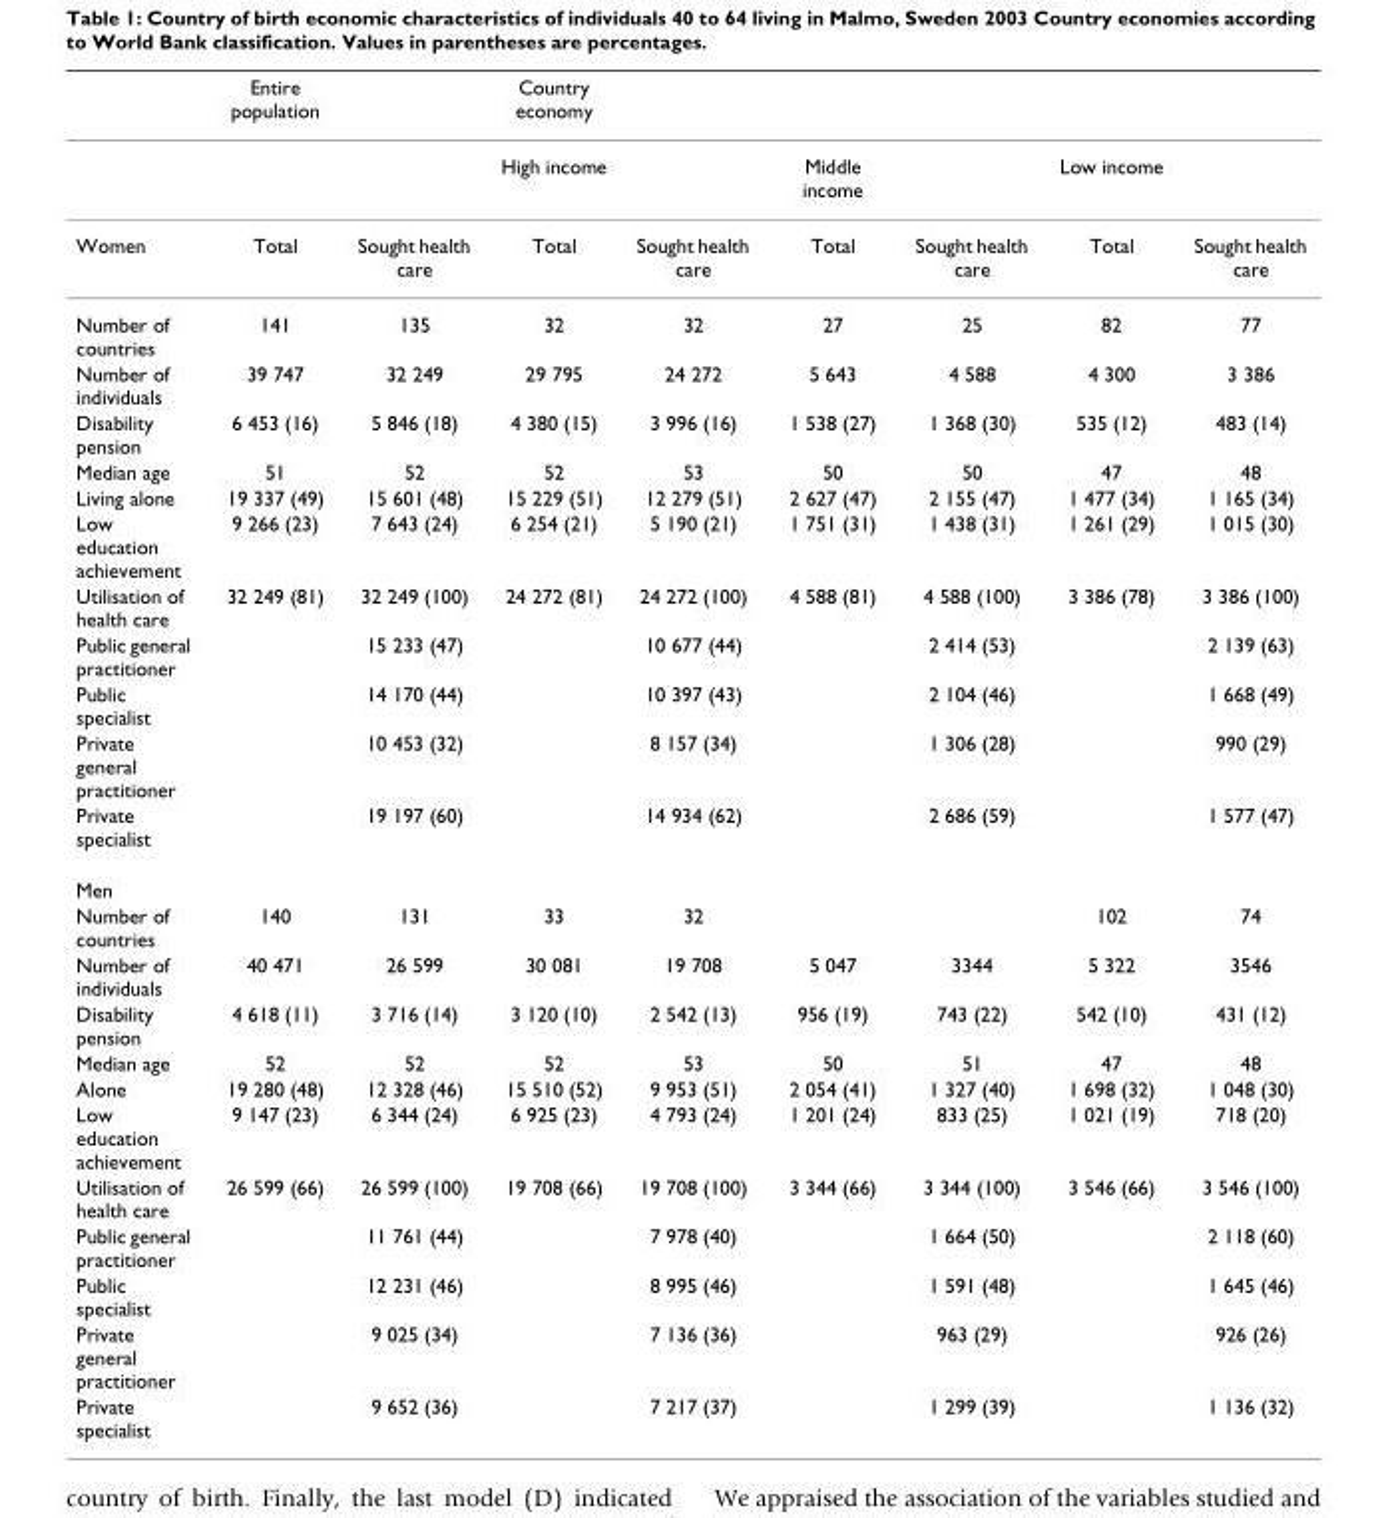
<table><thead><tr><td></td><td>Entire population</td><td></td><td>Country economy</td><td></td><td></td><td></td><td></td><td></td></tr></thead><tbody><tr><td></td><td></td><td></td><td>High income</td><td></td><td>Middle income</td><td></td><td>Low income</td><td></td></tr><tr><td>Women</td><td>Total</td><td>Sought health care</td><td>Total</td><td>Sought health care</td><td>Total</td><td>Sought health care</td><td>Total</td><td>Sought health care</td></tr><tr><td>Number of countries</td><td>141</td><td>135</td><td>32</td><td>32</td><td>27</td><td>25</td><td>82</td><td>77</td></tr><tr><td>Number of individuals</td><td>39 747</td><td>32 249</td><td>29 795</td><td>24 272</td><td>5 643</td><td>4 588</td><td>4 300</td><td>3 386</td></tr><tr><td>Disability pension</td><td>6 453 (16)</td><td>5 846 (18)</td><td>4 380 (15)</td><td>3 996 (16)</td><td>1 538 (27)</td><td>1 368 (30)</td><td>535 (12)</td><td>483 (14)</td></tr><tr><td>Median age</td><td>51</td><td>52</td><td>52</td><td>53</td><td>50</td><td>50</td><td>47</td><td>48</td></tr><tr><td>Living alone</td><td>19 337 (49)</td><td>15 601 (48)</td><td>15 229 (51)</td><td>12 279 (51)</td><td>2 627 (47)</td><td>2 155 (47)</td><td>1 477 (34)</td><td>1 165 (34)</td></tr><tr><td>Low education achievement</td><td>9 266 (23)</td><td>7 643 (24)</td><td>6 254 (21)</td><td>5 190 (21)</td><td>1 751 (31)</td><td>1 438 (31)</td><td>1 261 (29)</td><td>1 015 (30)</td></tr><tr><td>Utilisation of health care</td><td>32 249 (81)</td><td>32 249 (100)</td><td>24 272 (81)</td><td>24 272 (100)</td><td>4 588 (81)</td><td>4 588 (100)</td><td>3 386 (78)</td><td>3 386 (100)</td></tr><tr><td>Public general practitioner</td><td></td><td>15 233 (47)</td><td></td><td>10 677 (44)</td><td></td><td>2 414 (53)</td><td></td><td>2 139 (63)</td></tr><tr><td>Public specialist</td><td></td><td>14 170 (44)</td><td></td><td>10 397 (43)</td><td></td><td>2 104 (46)</td><td></td><td>1 668 (49)</td></tr><tr><td>Private general practitioner</td><td></td><td>10 453 (32)</td><td></td><td>8 157 (34)</td><td></td><td>1 306 (28)</td><td></td><td>990 (29)</td></tr><tr><td>Private specialist</td><td></td><td>19 197 (60)</td><td></td><td>14 934 (62)</td><td></td><td>2 686 (59)</td><td></td><td>1 577 (47)</td></tr><tr><td colspan="9">Men</td></tr><tr><td>Number of countries</td><td>140</td><td>131</td><td>33</td><td>32</td><td></td><td></td><td>102</td><td>74</td></tr><tr><td>Number of individuals</td><td>40 471</td><td>26 599</td><td>30 081</td><td>19 708</td><td>5 047</td><td>3344</td><td>5 322</td><td>3546</td></tr><tr><td>Disability pension</td><td>4 618 (11)</td><td>3 716 (14)</td><td>3 120 (10)</td><td>2 542 (13)</td><td>956 (19)</td><td>743 (22)</td><td>542 (10)</td><td>431 (12)</td></tr><tr><td>Median age</td><td>52</td><td>52</td><td>52</td><td>53</td><td>50</td><td>51</td><td>47</td><td>48</td></tr><tr><td>Alone</td><td>19 280 (48)</td><td>12 328 (46)</td><td>15 510 (52)</td><td>9 953 (51)</td><td>2 054 (41)</td><td>1 327 (40)</td><td>1 698 (32)</td><td>1 048 (30)</td></tr><tr><td>Low education achievement</td><td>9 147 (23)</td><td>6 344 (24)</td><td>6 925 (23)</td><td>4 793 (24)</td><td>1 201 (24)</td><td>833 (25)</td><td>1 021 (19)</td><td>718 (20)</td></tr><tr><td>Utilisation of health care</td><td>26 599 (66)</td><td>26 599 (100)</td><td>19 708 (66)</td><td>19 708 (100)</td><td>3 344 (66)</td><td>3 344 (100)</td><td>3 546 (66)</td><td>3 546 (100)</td></tr><tr><td>Public general practitioner</td><td></td><td>11 761 (44)</td><td></td><td>7 978 (40)</td><td></td><td>1 664 (50)</td><td></td><td>2 118 (60)</td></tr><tr><td>Public specialist</td><td></td><td>12 231 (46)</td><td></td><td>8 995 (46)</td><td></td><td>1 591 (48)</td><td></td><td>1 645 (46)</td></tr><tr><td>Private general practitioner</td><td></td><td>9 025 (34)</td><td></td><td>7 136 (36)</td><td></td><td>963 (29)</td><td></td><td>926 (26)</td></tr><tr><td>Private specialist</td><td></td><td>9 652 (36)</td><td></td><td>7 217 (37)</td><td></td><td>1 299 (39)</td><td></td><td>1 136 (32)</td></tr></tbody></table>